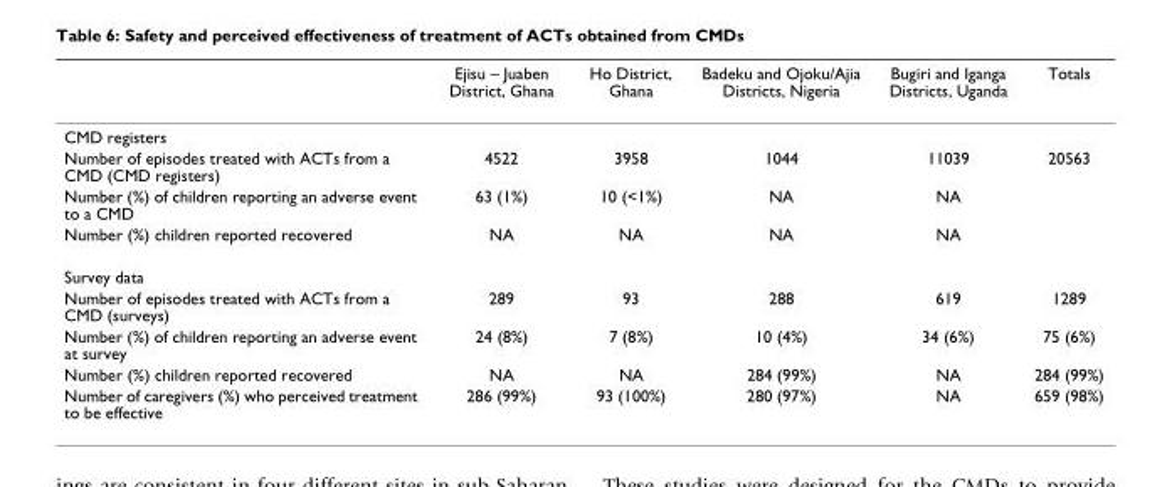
<table><thead><tr><td></td><td>Ejisu – Juaben District, Ghana</td><td>Ho District, Ghana</td><td>Badeku and Ojoku/Ajia Districts, Nigeria</td><td>Bugiri and Iganga Districts, Uganda</td><td>Totals</td></tr></thead><tbody><tr><td colspan="6">CMD registers</td></tr><tr><td>Number of episodes treated with ACTs from a CMD (CMD registers)</td><td>4522</td><td>3958</td><td>1044</td><td>11039</td><td>20563</td></tr><tr><td>Number (%) of children reporting an adverse event to a CMD</td><td>63 (1%)</td><td>10 (&lt;1%)</td><td>NA</td><td>NA</td><td></td></tr><tr><td>Number (%) children reported recovered</td><td>NA</td><td>NA</td><td>NA</td><td>NA</td><td></td></tr><tr><td colspan="6">Survey data</td></tr><tr><td>Number of episodes treated with ACTs from a CMD (surveys)</td><td>289</td><td>93</td><td>288</td><td>619</td><td>1289</td></tr><tr><td>Number (%) of children reporting an adverse event at survey</td><td>24 (8%)</td><td>7 (8%)</td><td>10 (4%)</td><td>34 (6%)</td><td>75 (6%)</td></tr><tr><td>Number (%) children reported recovered</td><td>NA</td><td>NA</td><td>284 (99%)</td><td>NA</td><td>284 (99%)</td></tr><tr><td>Number of caregivers (%) who perceived treatment to be effective</td><td>286 (99%)</td><td>93 (100%)</td><td>280 (97%)</td><td>NA</td><td>659 (98%)</td></tr></tbody></table>